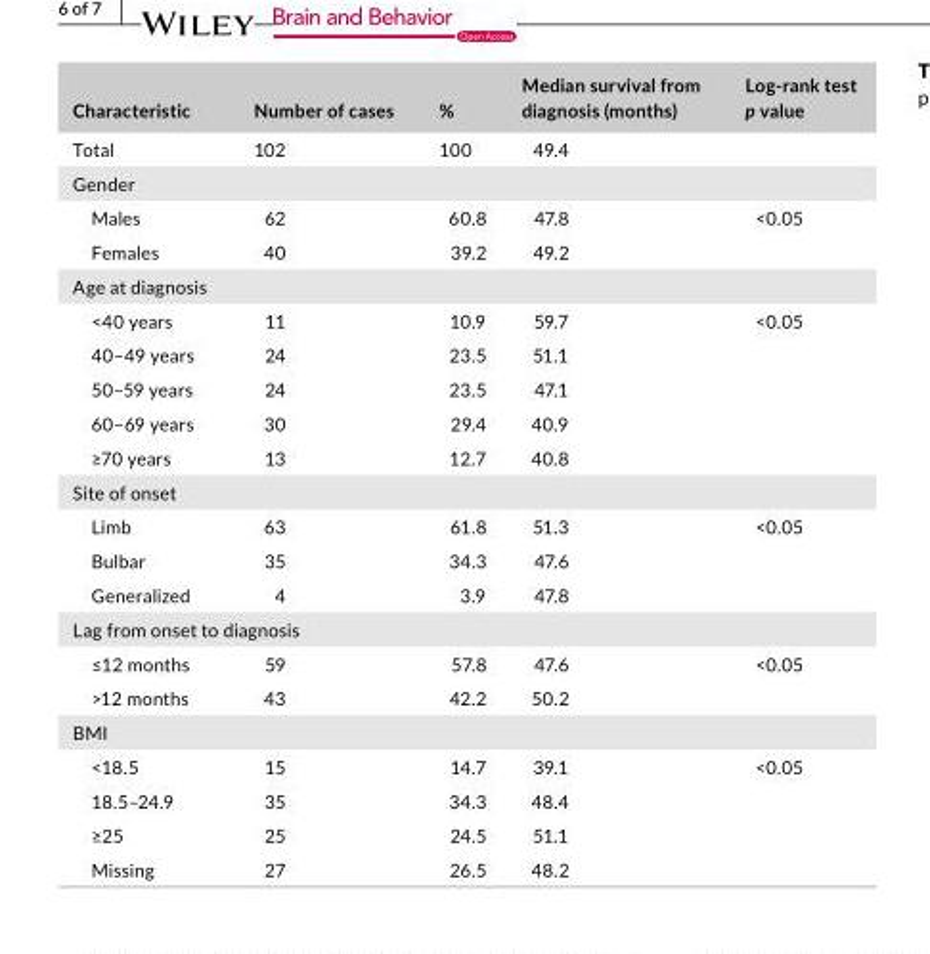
<table><thead><tr><td>Characteristic</td><td>Number of cases</td><td>%</td><td>Median survival from diagnosis (months)</td><td>Log‐rank test p value</td></tr></thead><tbody><tr><td>Total</td><td>102</td><td>100</td><td>49.4</td><td></td></tr><tr><td colspan="5">Gender</td></tr><tr><td>Males</td><td>62</td><td>60.8</td><td>47.8</td><td rowspan="2">&lt;0.05</td></tr><tr><td>Females</td><td>40</td><td>39.2</td><td>49.2</td></tr><tr><td colspan="5">Age at diagnosis</td></tr><tr><td>&lt;40 years</td><td>11</td><td>10.9</td><td>59.7</td><td rowspan="5">&lt;0.05</td></tr><tr><td>40–49 years</td><td>24</td><td>23.5</td><td>51.1</td></tr><tr><td>50–59 years</td><td>24</td><td>23.5</td><td>47.1</td></tr><tr><td>60–69 years</td><td>30</td><td>29.4</td><td>40.9</td></tr><tr><td>≥70 years</td><td>13</td><td>12.7</td><td>40.8</td></tr><tr><td colspan="5">Site of onset</td></tr><tr><td>Limb</td><td>63</td><td>61.8</td><td>51.3</td><td rowspan="3">&lt;0.05</td></tr><tr><td>Bulbar</td><td>35</td><td>34.3</td><td>47.6</td></tr><tr><td>Generalized</td><td>4</td><td>3.9</td><td>47.8</td></tr><tr><td colspan="5">Lag from onset to diagnosis</td></tr><tr><td>≤12 months</td><td>59</td><td>57.8</td><td>47.6</td><td rowspan="2">&lt;0.05</td></tr><tr><td>&gt;12 months</td><td>43</td><td>42.2</td><td>50.2</td></tr><tr><td colspan="5">BMI</td></tr><tr><td>&lt;18.5</td><td>15</td><td>14.7</td><td>39.1</td><td rowspan="4">&lt;0.05</td></tr><tr><td>18.5–24.9</td><td>35</td><td>34.3</td><td>48.4</td></tr><tr><td>≥25</td><td>25</td><td>24.5</td><td>51.1</td></tr><tr><td>Missing</td><td>27</td><td>26.5</td><td>48.2</td></tr></tbody></table>